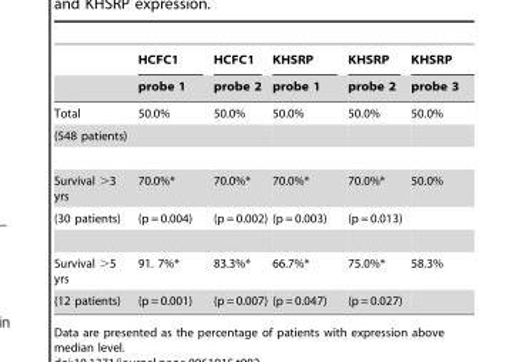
<table><thead><tr><td rowspan="2"></td><td rowspan="2">HCFC1 probe 1</td><td rowspan="2">HCFC1 probe 2</td><td rowspan="2">KHSRP probe 1</td><td rowspan="2">KHSRP probe 2</td><td rowspan="2">KHSRP probe 3</td></tr><tr></tr></thead><tbody><tr><td>Total</td><td>50.0%</td><td>50.0%</td><td>50.0%</td><td>50.0%</td><td>50.0%</td></tr><tr><td colspan="6">(548 patients)</td></tr><tr><td>Survival &gt;3 yrs</td><td>70.0%*</td><td>70.0%*</td><td>70.0%*</td><td>70.0%*</td><td>50.0%</td></tr><tr><td>(30 patients)</td><td>(p = 0.004)</td><td>(p = 0.002)</td><td>(p = 0.003)</td><td>(p = 0.013)</td><td></td></tr><tr><td>Survival &gt;5 yrs</td><td>91. 7%*</td><td>83.3%*</td><td>66.7%*</td><td>75.0%*</td><td>58.3%</td></tr><tr><td>(12 patients)</td><td>(p = 0.001)</td><td>(p = 0.007)</td><td>(p = 0.047)</td><td>(p = 0.027)</td><td></td></tr></tbody></table>